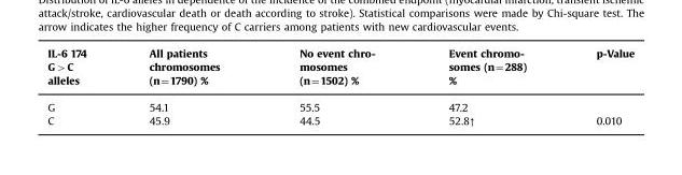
<table><thead><tr><td>IL-6 174 G&gt;C alleles</td><td>All patients chromosomes (n=1790) %</td><td>No event chro- mosomes (n¼1502) %</td><td>Event chromo- somes (n¼288) %</td><td>p-Value</td></tr></thead><tbody><tr><td>G</td><td>54.1</td><td>55.5</td><td>47.2</td><td></td></tr><tr><td>C</td><td>45.9</td><td>44.5</td><td>52.8↑</td><td>0.010</td></tr></tbody></table>